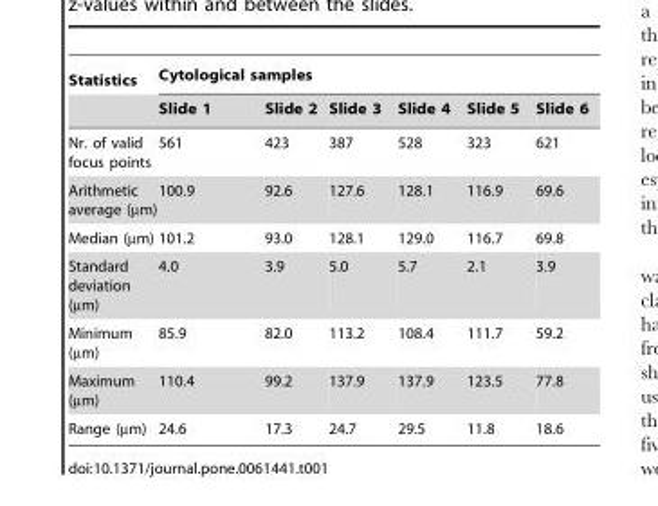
<table><thead><tr><td rowspan="2">Statistics</td><td colspan="6">Cytological samples</td></tr><tr><td>Slide 1</td><td>Slide 2</td><td>Slide 3</td><td>Slide 4</td><td>Slide 5</td><td>Slide 6</td></tr></thead><tbody><tr><td>Nr. of valid focus points</td><td>561</td><td>423</td><td>387</td><td>528</td><td>323</td><td>621</td></tr><tr><td>Arithmetic average (µm)</td><td>100.9</td><td>92.6</td><td>127.6</td><td>128.1</td><td>116.9</td><td>69.6</td></tr><tr><td>Median (µm)</td><td>101.2</td><td>93.0</td><td>128.1</td><td>129.0</td><td>116.7</td><td>69.8</td></tr><tr><td>Standard deviation (µm)</td><td>4.0</td><td>3.9</td><td>5.0</td><td>5.7</td><td>2.1</td><td>3.9</td></tr><tr><td>Minimum (µm)</td><td>85.9</td><td>82.0</td><td>113.2</td><td>108.4</td><td>111.7</td><td>59.2</td></tr><tr><td>Maximum (µm)</td><td>110.4</td><td>99.2</td><td>137.9</td><td>137.9</td><td>123.5</td><td>77.8</td></tr><tr><td>Range (µm)</td><td>24.6</td><td>17.3</td><td>24.7</td><td>29.5</td><td>11.8</td><td>18.6</td></tr></tbody></table>